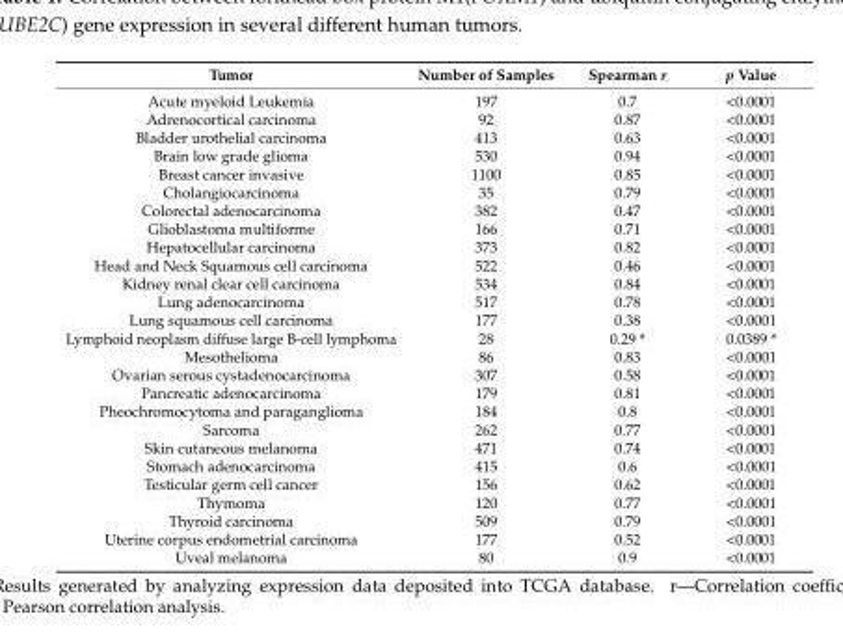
<table><thead><tr><td>Tumor</td><td>Number of Samples</td><td>Spearman r</td><td>p Value</td></tr></thead><tbody><tr><td>Acute myeloid Leukemia</td><td>197</td><td>0.7</td><td>&lt;0.0001</td></tr><tr><td>Adrenocortical carcinoma</td><td>92</td><td>0.87</td><td>&lt;0.0001</td></tr><tr><td>Bladder urothelial carcinoma</td><td>413</td><td>0.63</td><td>&lt;0.0001</td></tr><tr><td>Brain low grade glioma</td><td>530</td><td>0.94</td><td>&lt;0.0001</td></tr><tr><td>Breast cancer invasive</td><td>1100</td><td>0.85</td><td>&lt;0.0001</td></tr><tr><td>Cholangiocarcinoma</td><td>35</td><td>0.79</td><td>&lt;0.0001</td></tr><tr><td>Colorectal adenocarcinoma</td><td>382</td><td>0.47</td><td>&lt;0.0001</td></tr><tr><td>Glioblastoma multiforme</td><td>166</td><td>0.71</td><td>&lt;0.0001</td></tr><tr><td>Hepatocellular carcinoma</td><td>373</td><td>0.82</td><td>&lt;0.0001</td></tr><tr><td>Head and Neck Squamous cell carcinoma</td><td>522</td><td>0.46</td><td>&lt;0.0001</td></tr><tr><td>Kidney renal clear cell carcinoma</td><td>534</td><td>0.84</td><td>&lt;0.0001</td></tr><tr><td>Lung adenocarcinoma</td><td>517</td><td>0.78</td><td>&lt;0.0001</td></tr><tr><td>Lung squamous cell carcinoma</td><td>177</td><td>0.38</td><td>&lt;0.0001</td></tr><tr><td>Lymphoid neoplasm diffuse large B-cell lymphoma</td><td>28</td><td>0.29 *</td><td>0.0389 *</td></tr><tr><td>Mesothelioma</td><td>86</td><td>0.83</td><td>&lt;0.0001</td></tr><tr><td>Ovarian serous cystadenocarcinoma</td><td>307</td><td>0.58</td><td>&lt;0.0001</td></tr><tr><td>Pancreatic adenocarcinoma</td><td>179</td><td>0.81</td><td>&lt;0.0001</td></tr><tr><td>Pheochromocytoma and paraganglioma</td><td>184</td><td>0.8</td><td>&lt;0.0001</td></tr><tr><td>Sarcoma</td><td>262</td><td>0.77</td><td>&lt;0.0001</td></tr><tr><td>Skin cutaneous melanoma</td><td>471</td><td>0.74</td><td>&lt;0.0001</td></tr><tr><td>Stomach adenocarcinoma</td><td>415</td><td>0.6</td><td>&lt;0.0001</td></tr><tr><td>Testicular germ cell cancer</td><td>156</td><td>0.62</td><td>&lt;0.0001</td></tr><tr><td>Thymoma</td><td>120</td><td>0.77</td><td>&lt;0.0001</td></tr><tr><td>Thyroid carcinoma</td><td>509</td><td>0.79</td><td>&lt;0.0001</td></tr><tr><td>Uterine corpus endometrial carcinoma</td><td>177</td><td>0.52</td><td>&lt;0.0001</td></tr><tr><td>Uveal melanoma</td><td>80</td><td>0.9</td><td>&lt;0.0001</td></tr></tbody></table>